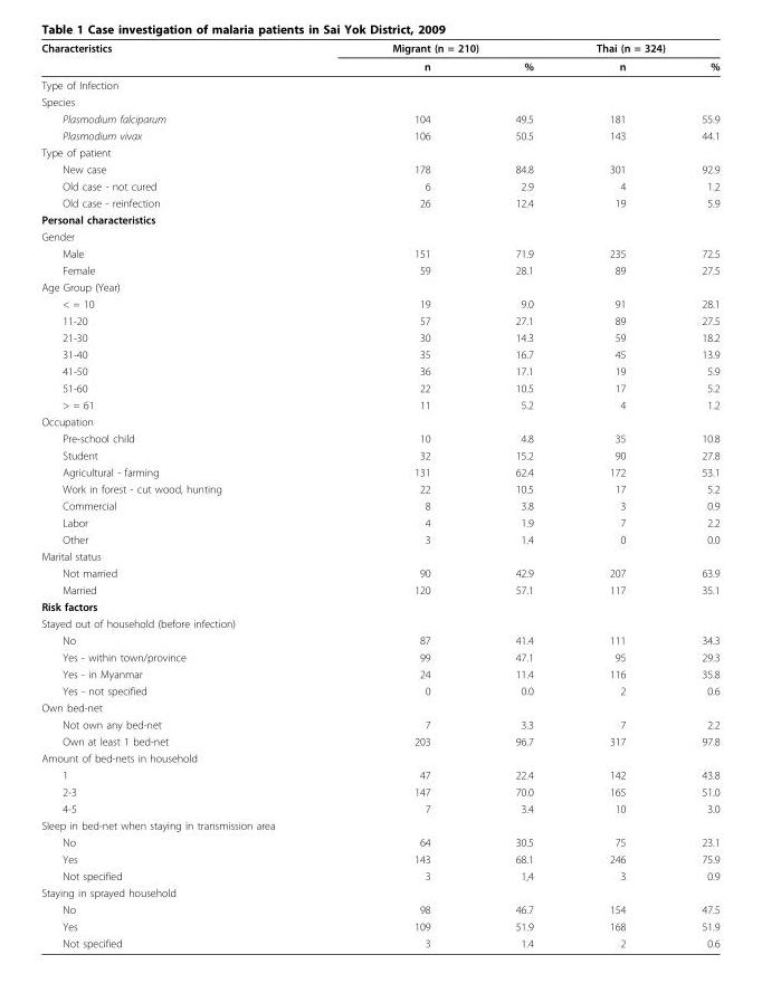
<table><thead><tr><td rowspan="2">Characteristics</td><td colspan="2">Migrant (n = 210)</td><td colspan="2">Thai (n = 324)</td></tr><tr><td>n</td><td>%</td><td>n</td><td>%</td></tr></thead><tbody><tr><td colspan="5">Type of Infection</td></tr><tr><td colspan="5">Species</td></tr><tr><td>Plasmodium falciparum</td><td>104</td><td>49.5</td><td>181</td><td>55.9</td></tr><tr><td>Plasmodium vivax</td><td>106</td><td>50.5</td><td>143</td><td>44.1</td></tr><tr><td colspan="5">Type of patient</td></tr><tr><td>New case</td><td>178</td><td>84.8</td><td>301</td><td>92.9</td></tr><tr><td>Old case - not cured</td><td>6</td><td>2.9</td><td>4</td><td>1.2</td></tr><tr><td>Old case - reinfection</td><td>26</td><td>12.4</td><td>19</td><td>5.9</td></tr><tr><td colspan="5">Personal characteristics</td></tr><tr><td colspan="5">Gender</td></tr><tr><td>Male</td><td>151</td><td>71.9</td><td>235</td><td>72.5</td></tr><tr><td>Female</td><td>59</td><td>28.1</td><td>89</td><td>27.5</td></tr><tr><td colspan="5">Age Group (Year)</td></tr><tr><td>&lt; = 10</td><td>19</td><td>9.0</td><td>91</td><td>28.1</td></tr><tr><td>11-20</td><td>57</td><td>27.1</td><td>89</td><td>27.5</td></tr><tr><td>21-30</td><td>30</td><td>14.3</td><td>59</td><td>18.2</td></tr><tr><td>31-40</td><td>35</td><td>16.7</td><td>45</td><td>13.9</td></tr><tr><td>41-50</td><td>36</td><td>17.1</td><td>19</td><td>5.9</td></tr><tr><td>51-60</td><td>22</td><td>10.5</td><td>17</td><td>5.2</td></tr><tr><td>&gt; = 61</td><td>11</td><td>5.2</td><td>4</td><td>1.2</td></tr><tr><td colspan="5">Occupation</td></tr><tr><td>Pre-school child</td><td>10</td><td>4.8</td><td>35</td><td>10.8</td></tr><tr><td>Student</td><td>32</td><td>15.2</td><td>90</td><td>27.8</td></tr><tr><td>Agricultural - farming</td><td>131</td><td>62.4</td><td>172</td><td>53.1</td></tr><tr><td>Work in forest - cut wood, hunting</td><td>22</td><td>10.5</td><td>17</td><td>5.2</td></tr><tr><td>Commercial</td><td>8</td><td>3.8</td><td>3</td><td>0.9</td></tr><tr><td>Labor</td><td>4</td><td>1.9</td><td>7</td><td>2.2</td></tr><tr><td>Other</td><td>3</td><td>1.4</td><td>0</td><td>0.0</td></tr><tr><td colspan="5">Marital status</td></tr><tr><td>Not married</td><td>90</td><td>42.9</td><td>207</td><td>63.9</td></tr><tr><td>Married</td><td>120</td><td>57.1</td><td>117</td><td>35.1</td></tr><tr><td colspan="5">Risk factors</td></tr><tr><td colspan="5">Stayed out of household (before infection)</td></tr><tr><td>No</td><td>87</td><td>41.4</td><td>111</td><td>34.3</td></tr><tr><td>Yes - within town/province</td><td>99</td><td>47.1</td><td>95</td><td>29.3</td></tr><tr><td>Yes - in Myanmar</td><td>24</td><td>11.4</td><td>116</td><td>35.8</td></tr><tr><td>Yes - not specified</td><td>0</td><td>0.0</td><td>2</td><td>0.6</td></tr><tr><td colspan="5">Own bed-net</td></tr><tr><td>Not own any bed-net</td><td>7</td><td>3.3</td><td>7</td><td>2.2</td></tr><tr><td>Own at least 1 bed-net</td><td>203</td><td>96.7</td><td>317</td><td>97.8</td></tr><tr><td colspan="5">Amount of bed-nets in household</td></tr><tr><td>1</td><td>47</td><td>22.4</td><td>142</td><td>43.8</td></tr><tr><td>2-3</td><td>147</td><td>70.0</td><td>165</td><td>51.0</td></tr><tr><td>4-5</td><td>7</td><td>3.4</td><td>10</td><td>3.0</td></tr><tr><td colspan="5">Sleep in bed-net when staying in transmission area</td></tr><tr><td>No</td><td>64</td><td>30.5</td><td>75</td><td>23.1</td></tr><tr><td>Yes</td><td>143</td><td>68.1</td><td>246</td><td>75.9</td></tr><tr><td>Not specified</td><td>3</td><td>1,4</td><td>3</td><td>0.9</td></tr><tr><td colspan="5">Staying in sprayed household</td></tr><tr><td>No</td><td>98</td><td>46.7</td><td>154</td><td>47.5</td></tr><tr><td>Yes</td><td>109</td><td>51.9</td><td>168</td><td>51.9</td></tr><tr><td>Not specified</td><td>3</td><td>1.4</td><td>2</td><td>0.6</td></tr></tbody></table>